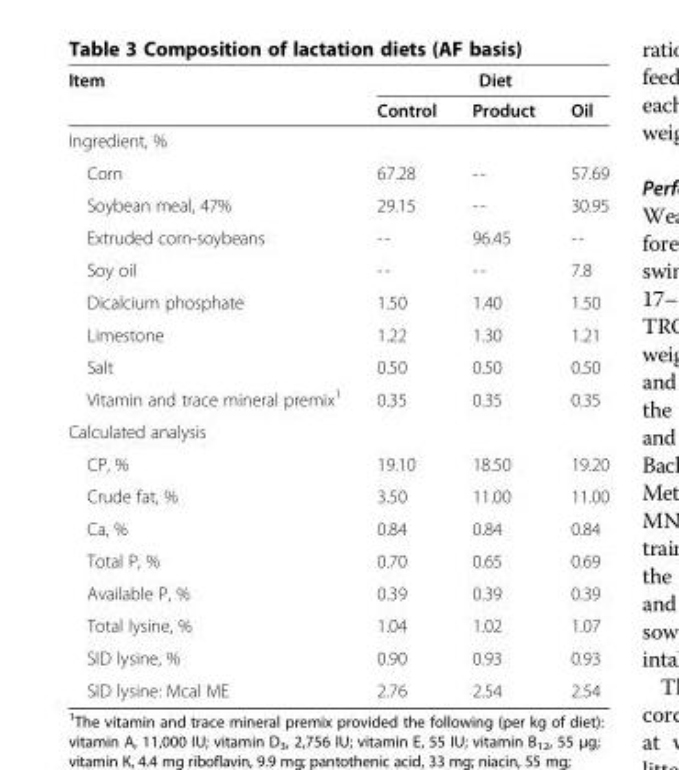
<table><thead><tr><td rowspan="2">Item</td><td colspan="3">Diet</td></tr><tr><td>Control</td><td>Product</td><td>Oil</td></tr></thead><tbody><tr><td colspan="4">Ingredient, %</td></tr><tr><td>Corn</td><td>67.28</td><td>--</td><td>57.69</td></tr><tr><td>Soybean meal, 47%</td><td>29.15</td><td>--</td><td>30.95</td></tr><tr><td>Extruded corn-soybeans</td><td>--</td><td>96.45</td><td>--</td></tr><tr><td>Soy oil</td><td>--</td><td>--</td><td>7.8</td></tr><tr><td>Dicalcium phosphate</td><td>1.50</td><td>1.40</td><td>1.50</td></tr><tr><td>Limestone</td><td>1.22</td><td>1.30</td><td>1.21</td></tr><tr><td>Salt</td><td>0.50</td><td>0.50</td><td>0.50</td></tr><tr><td>Vitamin and trace mineral premix<sup>1</sup></td><td>0.35</td><td>0.35</td><td>0.35</td></tr><tr><td colspan="4">Calculated analysis</td></tr><tr><td>CP, %</td><td>19.10</td><td>18.50</td><td>19.20</td></tr><tr><td>Crude fat, %</td><td>3.50</td><td>11.00</td><td>11.00</td></tr><tr><td>Ca, %</td><td>0.84</td><td>0.84</td><td>0.84</td></tr><tr><td>Total P, %</td><td>0.70</td><td>0.65</td><td>0.69</td></tr><tr><td>Available P, %</td><td>0.39</td><td>0.39</td><td>0.39</td></tr><tr><td>Total lysine, %</td><td>1.04</td><td>1.02</td><td>1.07</td></tr><tr><td>SID lysine, %</td><td>0.90</td><td>0.93</td><td>0.93</td></tr><tr><td>SID lysine: Mcal ME</td><td>2.76</td><td>2.54</td><td>2.54</td></tr></tbody></table>